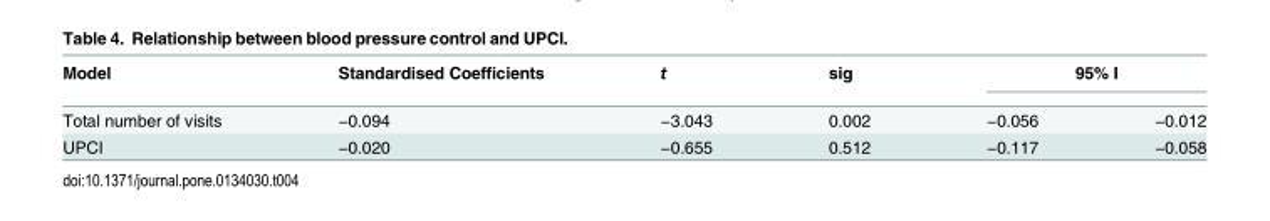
<table><thead><tr><td rowspan="2">Model Total number of visits</td><td rowspan="2">Standardised Coefficients −0.094</td><td rowspan="2">t −3.043</td><td rowspan="2">sig 0.002</td><td colspan="2">95% I</td></tr><tr><td>−0.056</td><td>−0.012</td></tr></thead><tbody><tr><td>UPCI</td><td>−0.020</td><td>−0.655</td><td>0.512</td><td>−0.117</td><td>−0.058</td></tr></tbody></table>